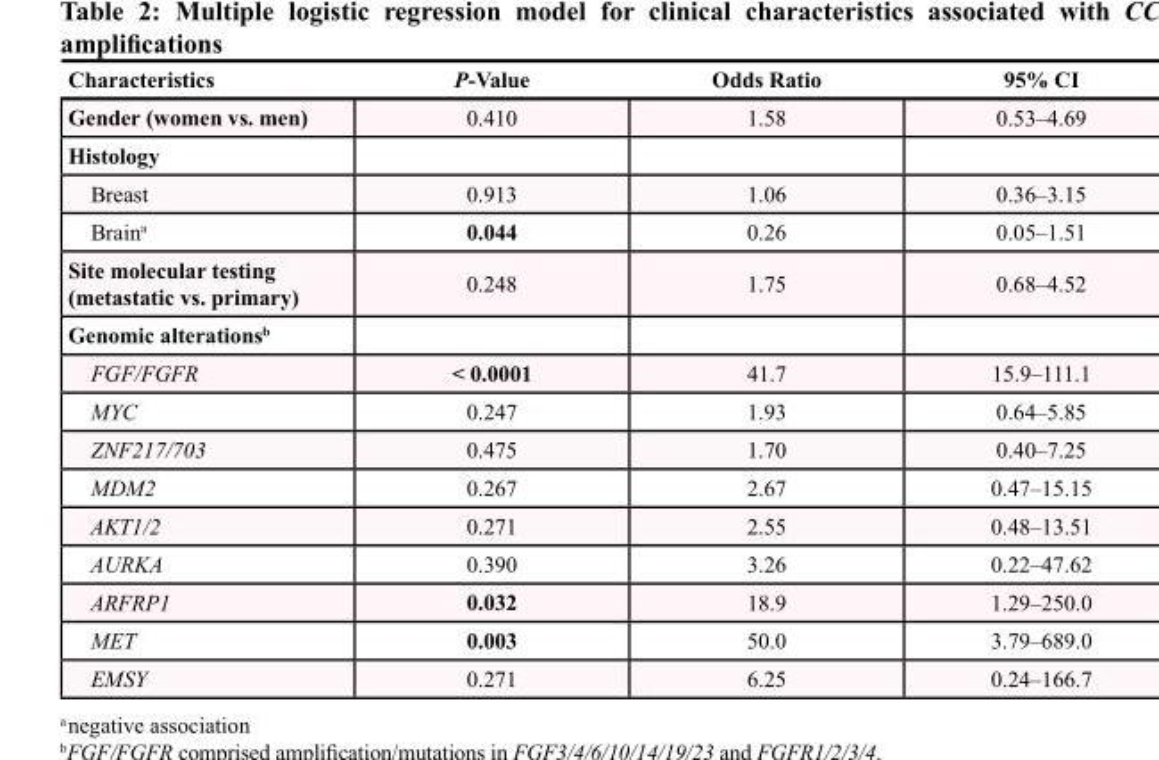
<table><thead><tr><td>Characteristics</td><td>P-Value</td><td>Odds Ratio</td><td>95% CI</td></tr></thead><tbody><tr><td>Gender (women vs. men)</td><td>0.410</td><td>1.58</td><td>0.53–4.69</td></tr><tr><td colspan="4">Histology</td></tr><tr><td>Breast</td><td>0.913</td><td>1.06</td><td>0.36–3.15</td></tr><tr><td>Brain<sup>a</sup></td><td>0.044</td><td>0.26</td><td>0.05–1.51</td></tr><tr><td>Site molecular testing (metastatic vs. primary)</td><td>0.248</td><td>1.75</td><td>0.68–4.52</td></tr><tr><td colspan="4">Genomic alterations<sup>b</sup></td></tr><tr><td>FGF/FGFR</td><td>&lt; 0.0001</td><td>41.7</td><td>15.9–111.1</td></tr><tr><td>MYC</td><td>0.247</td><td>1.93</td><td>0.64–5.85</td></tr><tr><td>ZNF217/703</td><td>0.475</td><td>1.70</td><td>0.40–7.25</td></tr><tr><td>MDM2</td><td>0.267</td><td>2.67</td><td>0.47–15.15</td></tr><tr><td>AKT1/2</td><td>0.271</td><td>2.55</td><td>0.48–13.51</td></tr><tr><td>AURKA</td><td>0.390</td><td>3.26</td><td>0.22–47.62</td></tr><tr><td>ARFRP1</td><td>0.032</td><td>18.9</td><td>1.29–250.0</td></tr><tr><td>MET</td><td>0.003</td><td>50.0</td><td>3.79–689.0</td></tr><tr><td>EMSY</td><td>0.271</td><td>6.25</td><td>0.24–166.7</td></tr></tbody></table>